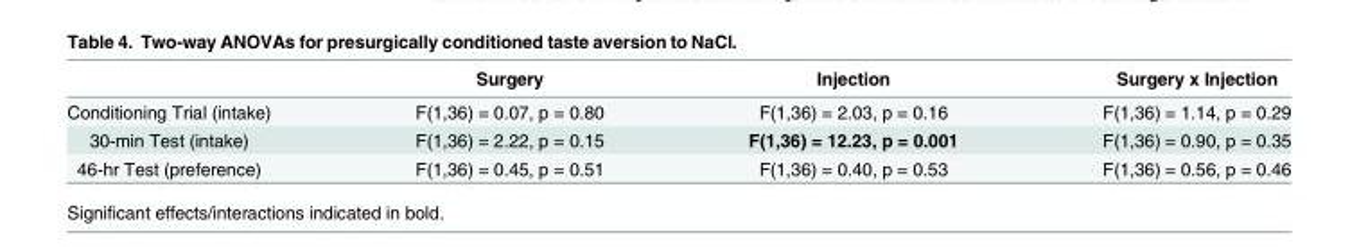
<table><thead><tr><td></td><td>Surgery</td><td>Injection</td><td>Surgery x Injection</td></tr></thead><tbody><tr><td>Conditioning Trial (intake)</td><td>F(1,36) = 0.07, p = 0.80</td><td>F(1,36) = 2.03, p = 0.16</td><td>F(1,36) = 1.14, p = 0.29</td></tr><tr><td>30-min Test (intake)</td><td>F(1,36) = 2.22, p = 0.15</td><td>F(1,36) = 12.23, p = 0.001</td><td>F(1,36) = 0.90, p = 0.35</td></tr><tr><td>46-hr Test (preference)</td><td>F(1,36) = 0.45, p = 0.51</td><td>F(1,36) = 0.40, p = 0.53</td><td>F(1,36) = 0.56, p = 0.46</td></tr></tbody></table>